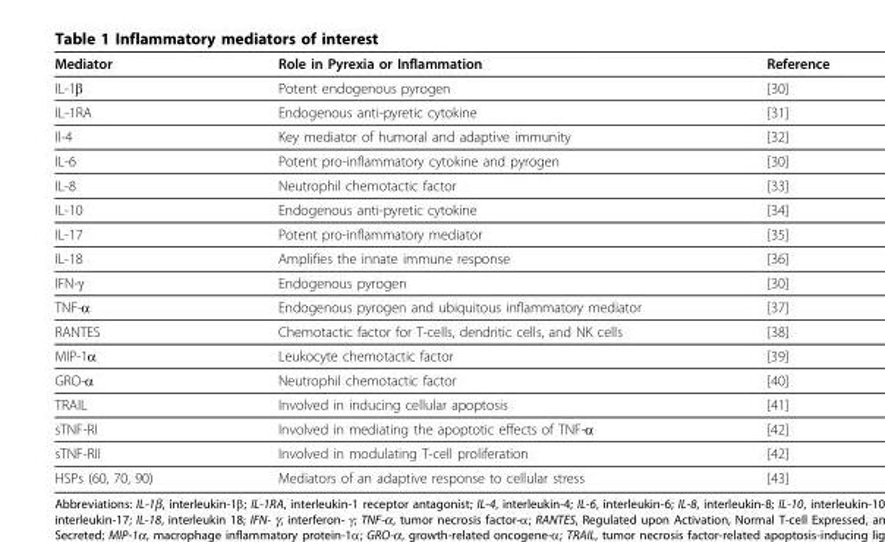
<table><thead><tr><td>Mediator</td><td>Role in Pyrexia or Inflammation</td><td>Reference</td></tr></thead><tbody><tr><td>IL-1β</td><td>Potent endogenous pyrogen</td><td>[30]</td></tr><tr><td>IL-1RA</td><td>Endogenous anti-pyretic cytokine</td><td>[31]</td></tr><tr><td>Il-4</td><td>Key mediator of humoral and adaptive immunity</td><td>[32]</td></tr><tr><td>IL-6</td><td>Potent pro-inflammatory cytokine and pyrogen</td><td>[30]</td></tr><tr><td>IL-8</td><td>Neutrophil chemotactic factor</td><td>[33]</td></tr><tr><td>IL-10</td><td>Endogenous anti-pyretic cytokine</td><td>[34]</td></tr><tr><td>IL-17</td><td>Potent pro-inflammatory mediator</td><td>[35]</td></tr><tr><td>IL-18</td><td>Amplifies the innate immune response</td><td>[36]</td></tr><tr><td>IFN-γ</td><td>Endogenous pyrogen</td><td>[30]</td></tr><tr><td>TNF-α</td><td>Endogenous pyrogen and ubiquitous inflammatory mediator</td><td>[37]</td></tr><tr><td>RANTES</td><td>Chemotactic factor for T-cells, dendritic cells, and NK cells</td><td>[38]</td></tr><tr><td>MIP-1α</td><td>Leukocyte chemotactic factor</td><td>[39]</td></tr><tr><td>GRO-α</td><td>Neutrophil chemotactic factor</td><td>[40]</td></tr><tr><td>TRAIL</td><td>Involved in inducing cellular apoptosis</td><td>[41]</td></tr><tr><td>sTNF-RI</td><td>Involved in mediating the apoptotic effects of TNF-α</td><td>[42]</td></tr><tr><td>sTNF-RII</td><td>Involved in modulating T-cell proliferation</td><td>[42]</td></tr><tr><td>HSPs (60, 70, 90)</td><td>Mediators of an adaptive response to cellular stress</td><td>[43]</td></tr></tbody></table>